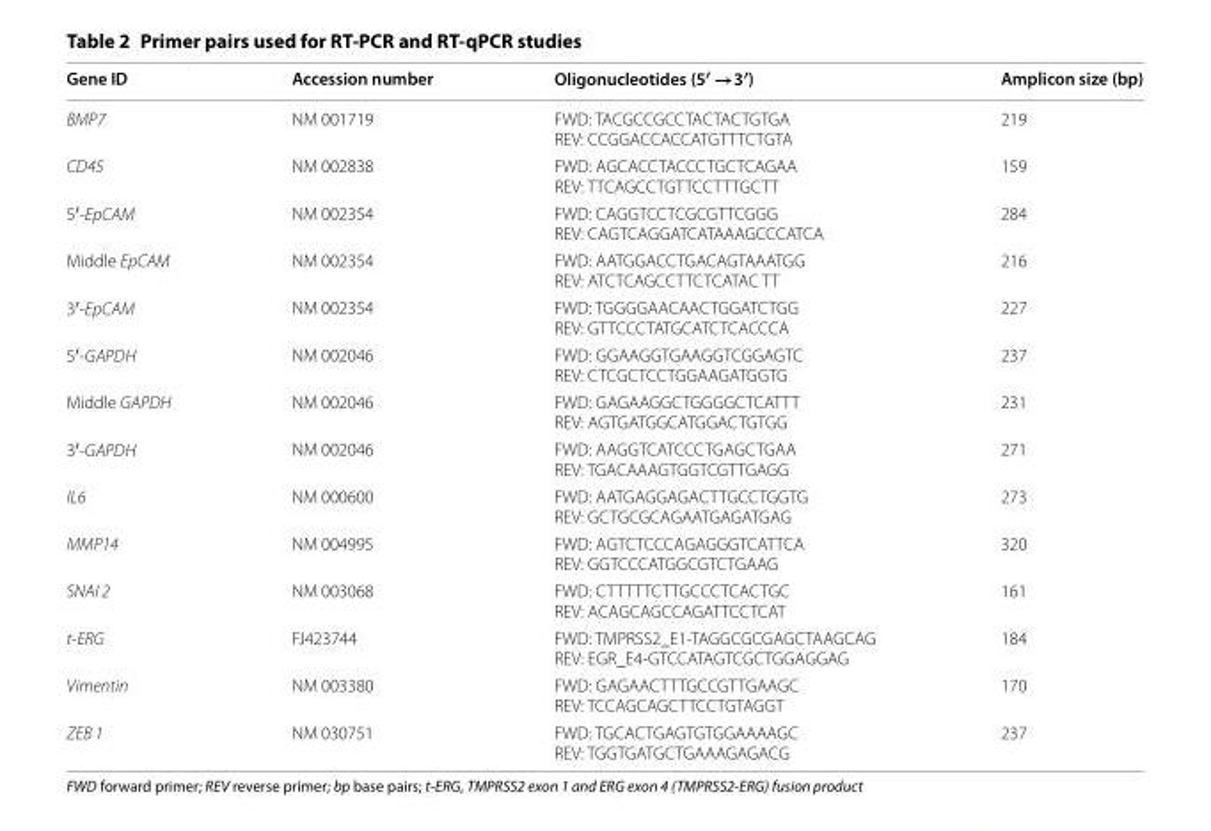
<table><thead><tr><td>Gene ID</td><td>Accession number</td><td>Oligonucleotides (5′ →3′)</td><td>Amplicon size (bp)</td></tr></thead><tbody><tr><td>BMP7</td><td>NM 001719</td><td>FWD: TACGCCGCCTACTACTGTGA REV: CCGGACCACCATGTTTCTGTA</td><td>219</td></tr><tr><td>CD45</td><td>NM 002838</td><td>FWD: AGCACCTACCCTGCTCAGAA REV: TTCAGCCTGTTCCTTTGCTT</td><td>159</td></tr><tr><td>5′‑EpCAM</td><td>NM 002354</td><td>FWD: CAGGTCCTCGCGTTCGGG REV: CAGTCAGGATCATAAAGCCCATCA</td><td>284</td></tr><tr><td>Middle EpCAM</td><td>NM 002354</td><td>FWD: AATGGACCTGACAGTAAATGG REV: ATCTCAGCCTTCTCATAC TT</td><td>216</td></tr><tr><td>3′‑EpCAM</td><td>NM 002354</td><td>FWD: TGGGGAACAACTGGATCTGG REV: GTTCCCTATGCATCTCACCCA</td><td>227</td></tr><tr><td>5′‑GAPDH</td><td>NM 002046</td><td>FWD: GGAAGGTGAAGGTCGGAGTC REV: CTCGCTCCTGGAAGATGGTG</td><td>237</td></tr><tr><td>Middle GAPDH</td><td>NM 002046</td><td>FWD: GAGAAGGCTGGGGCTCATTT REV: AGTGATGGCATGGACTGTGG</td><td>231</td></tr><tr><td>3′‑GAPDH</td><td>NM 002046</td><td>FWD: AAGGTCATCCCTGAGCTGAA REV: TGACAAAGTGGTCGTTGAGG</td><td>271</td></tr><tr><td>IL6</td><td>NM 000600</td><td>FWD: AATGAGGAGACTTGCCTGGTG REV: GCTGCGCAGAATGAGATGAG</td><td>273</td></tr><tr><td>MMP14</td><td>NM 004995</td><td>FWD: AGTCTCCCAGAGGGTCATTCA REV: GGTCCCATGGCGTCTGAAG</td><td>320</td></tr><tr><td>SNAI 2</td><td>NM 003068</td><td>FWD: CTTTTTCTTGCCCTCACTGC REV: ACAGCAGCCAGATTCCTCAT</td><td>161</td></tr><tr><td>t‑ERG</td><td>FJ423744</td><td>FWD: TMPRSS2_E1‑TAGGCGCGAGCTAAGCAG REV: EGR_E4‑GTCCATAGTCGCTGGAGGAG</td><td>184</td></tr><tr><td>Vimentin</td><td>NM 003380</td><td>FWD: GAGAACTTTGCCGTTGAAGC REV: TCCAGCAGCTTCCTGTAGGT</td><td>170</td></tr><tr><td>ZEB 1</td><td>NM 030751</td><td>FWD: TGCACTGAGTGTGGAAAAGC REV: TGGTGATGCTGAAAGAGACG</td><td>237</td></tr></tbody></table>